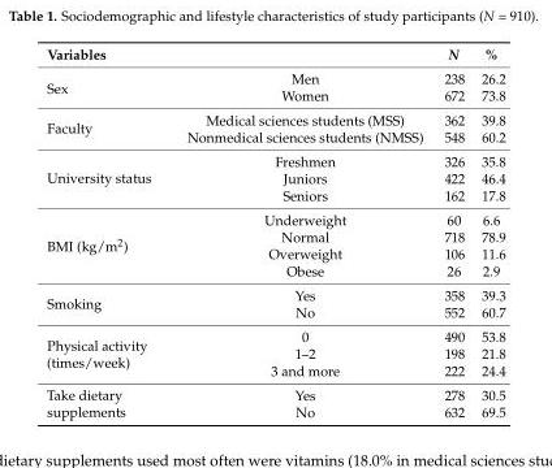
<table><thead><tr><td>Variables</td><td></td><td>N</td><td>%</td></tr></thead><tbody><tr><td rowspan="2">Sex</td><td>Men</td><td>238</td><td>26.2</td></tr><tr><td>Women</td><td>672</td><td>73.8</td></tr><tr><td rowspan="2">Faculty</td><td>Medical sciences students (MSS)</td><td>362</td><td>39.8</td></tr><tr><td>Nonmedical sciences students (NMSS)</td><td>548</td><td>60.2</td></tr><tr><td rowspan="3">University status</td><td>Freshmen</td><td>326</td><td>35.8</td></tr><tr><td>Juniors</td><td>422</td><td>46.4</td></tr><tr><td>Seniors</td><td>162</td><td>17.8</td></tr><tr><td rowspan="4">BMI (kg/m<sup>2</sup>)</td><td>Underweight</td><td>60</td><td>6.6</td></tr><tr><td>Normal</td><td>718</td><td>78.9</td></tr><tr><td>Overweight</td><td>106</td><td>11.6</td></tr><tr><td>Obese</td><td>26</td><td>2.9</td></tr><tr><td rowspan="2">Smoking</td><td>Yes</td><td>358</td><td>39.3</td></tr><tr><td>No</td><td>552</td><td>60.7</td></tr><tr><td rowspan="3">Physical activity (times/week)</td><td>0</td><td>490</td><td>53.8</td></tr><tr><td>1–2</td><td>198</td><td>21.8</td></tr><tr><td>3 and more</td><td>222</td><td>24.4</td></tr><tr><td rowspan="2">Take dietary supplements</td><td>Yes</td><td>278</td><td>30.5</td></tr><tr><td>No</td><td>632</td><td>69.5</td></tr></tbody></table>